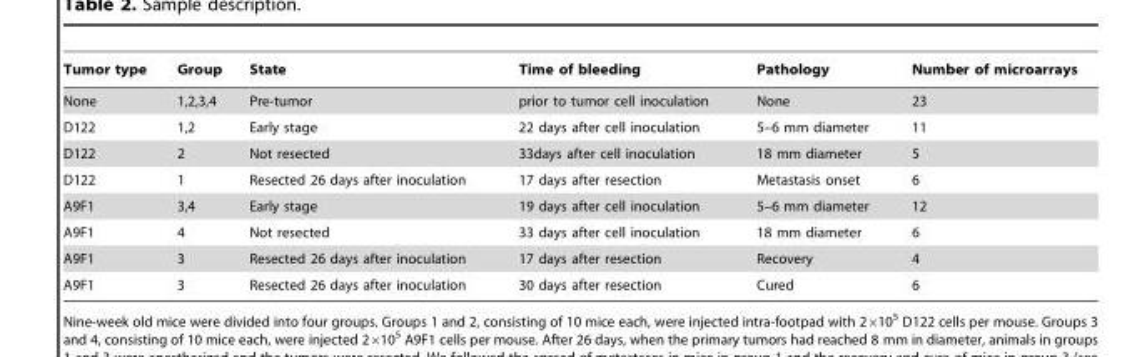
<table><thead><tr><td>Tumor type</td><td>Group</td><td>State</td><td>Time of bleeding</td><td>Pathology</td><td>Number of microarrays</td></tr></thead><tbody><tr><td>None</td><td>1,2,3,4</td><td>Pre-tumor</td><td>prior to tumor cell inoculation</td><td>None</td><td>23</td></tr><tr><td>D122</td><td>1,2</td><td>Early stage</td><td>22 days after cell inoculation</td><td>5–6 mm diameter</td><td>11</td></tr><tr><td>D122</td><td>2</td><td>Not resected</td><td>33days after cell inoculation</td><td>18 mm diameter</td><td>5</td></tr><tr><td>D122</td><td>1</td><td>Resected 26 days after inoculation</td><td>17 days after resection</td><td>Metastasis onset</td><td>6</td></tr><tr><td>A9F1</td><td>3,4</td><td>Early stage</td><td>19 days after cell inoculation</td><td>5–6 mm diameter</td><td>12</td></tr><tr><td>A9F1</td><td>4</td><td>Not resected</td><td>33 days after cell inoculation</td><td>18 mm diameter</td><td>6</td></tr><tr><td>A9F1</td><td>3</td><td>Resected 26 days after inoculation</td><td>17 days after resection</td><td>Recovery</td><td>4</td></tr><tr><td>A9F1</td><td>3</td><td>Resected 26 days after inoculation</td><td>30 days after resection</td><td>Cured</td><td>6</td></tr></tbody></table>